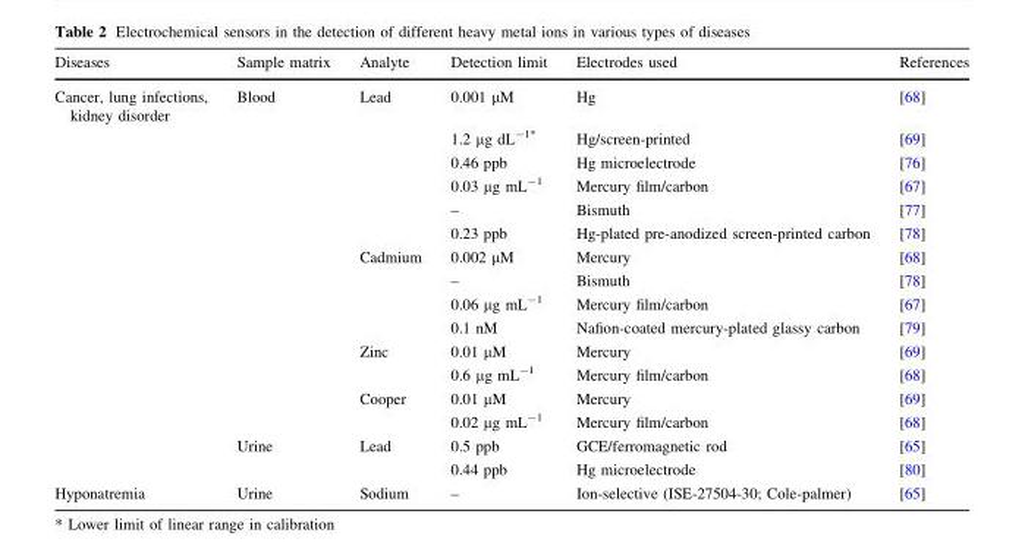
<table><thead><tr><td>Diseases</td><td>Sample matrix</td><td>Analyte</td><td>Detection limit</td><td>Electrodes used</td><td>References</td></tr></thead><tbody><tr><td rowspan="16">Cancer, lung infections, kidney disorder</td><td>Blood</td><td>Lead</td><td>0.001 µM</td><td>Hg</td><td>[68]</td></tr><tr><td></td><td></td><td>1.2 µg dL<sup>-1*</sup></td><td>Hg/screen-printed</td><td>[69]</td></tr><tr><td></td><td></td><td>0.46 ppb</td><td>Hg microelectrode</td><td>[76]</td></tr><tr><td></td><td></td><td>0.03 μg mL<sup>-1</sup></td><td>Mercury film/carbon</td><td>[67]</td></tr><tr><td></td><td></td><td>–</td><td>Bismuth</td><td>[77]</td></tr><tr><td></td><td></td><td>0.23 ppb</td><td>Hg-plated pre-anodized screen-printed carbon</td><td>[78]</td></tr><tr><td></td><td>Cadmium</td><td>0.002 µM</td><td>Mercury</td><td>[68]</td></tr><tr><td></td><td></td><td>–</td><td>Bismuth</td><td>[78]</td></tr><tr><td></td><td></td><td>0.06 μg mL<sup>-1</sup></td><td>Mercury film/carbon</td><td>[67]</td></tr><tr><td></td><td></td><td>0.1 nM</td><td>Nafion-coated mercury-plated glassy carbon</td><td>[79]</td></tr><tr><td></td><td>Zinc</td><td>0.01 µM</td><td>Mercury</td><td>[69]</td></tr><tr><td></td><td></td><td>0.6 μg mL<sup>-1</sup></td><td>Mercury film/carbon</td><td>[68]</td></tr><tr><td></td><td>Cooper</td><td>0.01 µM</td><td>Mercury</td><td>[69]</td></tr><tr><td></td><td></td><td>0.02 μg mL<sup>-1</sup></td><td>Mercury film/carbon</td><td>[68]</td></tr><tr><td>Urine</td><td>Lead</td><td>0.5 ppb</td><td>GCE/ferromagnetic rod</td><td>[65]</td></tr><tr><td></td><td></td><td>0.44 ppb</td><td>Hg microelectrode</td><td>[80]</td></tr><tr><td>Hyponatremia</td><td>Urine</td><td>Sodium</td><td>–</td><td>Ion-selective (ISE-27504-30; Cole-palmer)</td><td>[65]</td></tr></tbody></table>